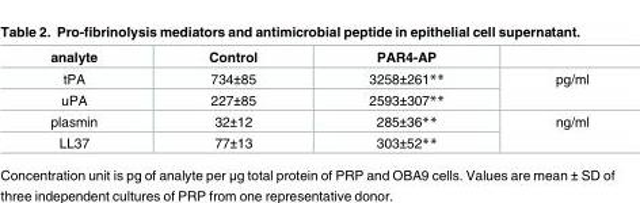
<table><thead><tr><td>analyte</td><td>Control</td><td>PAR4-AP</td><td></td></tr></thead><tbody><tr><td>tPA</td><td>734±85</td><td>3258±261**</td><td rowspan="2">pg/ml</td></tr><tr><td>uPA</td><td>227±85</td><td>2593±307**</td></tr><tr><td>plasmin</td><td>32±12</td><td>285±36**</td><td rowspan="2">ng/ml</td></tr><tr><td>LL37</td><td>77±13</td><td>303±52**</td></tr></tbody></table>